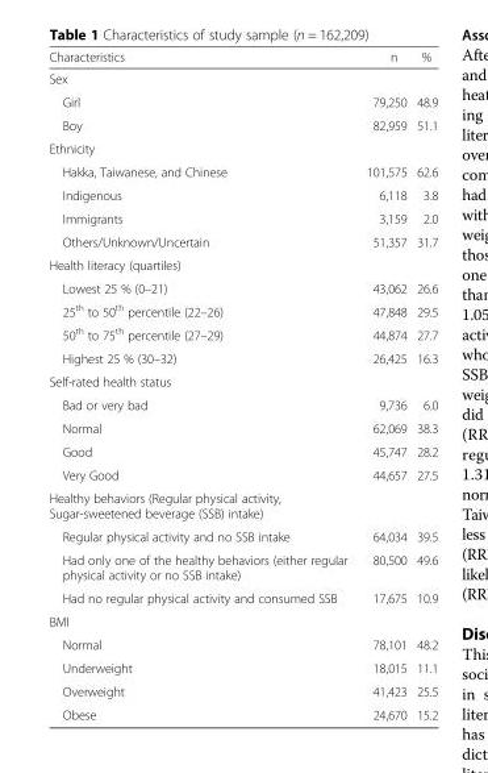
<table><thead><tr><td>Characteristics</td><td>n</td><td>%</td></tr></thead><tbody><tr><td colspan="3">Sex</td></tr><tr><td>Girl</td><td>79,250</td><td>48.9</td></tr><tr><td>Boy</td><td>82,959</td><td>51.1</td></tr><tr><td colspan="3">Ethnicity</td></tr><tr><td>Hakka, Taiwanese, and Chinese</td><td>101,575</td><td>62.6</td></tr><tr><td>Indigenous</td><td>6,118</td><td>3.8</td></tr><tr><td>Immigrants</td><td>3,159</td><td>2.0</td></tr><tr><td>Others/Unknown/Uncertain</td><td>51,357</td><td>31.7</td></tr><tr><td colspan="3">Health literacy (quartiles)</td></tr><tr><td>Lowest 25 % (0–21)</td><td>43,062</td><td>26.6</td></tr><tr><td>25<sup>th</sup> to 50<sup>th</sup> percentile (22–26)</td><td>47,848</td><td>29.5</td></tr><tr><td>50<sup>th</sup> to 75<sup>th</sup> percentile (27–29)</td><td>44,874</td><td>27.7</td></tr><tr><td>Highest 25 % (30–32)</td><td>26,425</td><td>16.3</td></tr><tr><td colspan="3">Self-rated health status</td></tr><tr><td>Bad or very bad</td><td>9,736</td><td>6.0</td></tr><tr><td>Normal</td><td>62,069</td><td>38.3</td></tr><tr><td>Good</td><td>45,747</td><td>28.2</td></tr><tr><td>Very Good</td><td>44,657</td><td>27.5</td></tr><tr><td colspan="3">Healthy behaviors (Regular physical activity, Sugar-sweetened beverage (SSB) intake)</td></tr><tr><td>Regular physical activity and no SSB intake</td><td>64,034</td><td>39.5</td></tr><tr><td>Had only one of the healthy behaviors (either regular physical activity or no SSB intake)</td><td>80,500</td><td>49.6</td></tr><tr><td>Had no regular physical activity and consumed SSB</td><td>17,675</td><td>10.9</td></tr><tr><td colspan="3">BMI</td></tr><tr><td>Normal</td><td>78,101</td><td>48.2</td></tr><tr><td>Underweight</td><td>18,015</td><td>11.1</td></tr><tr><td>Overweight</td><td>41,423</td><td>25.5</td></tr><tr><td>Obese</td><td>24,670</td><td>15.2</td></tr></tbody></table>